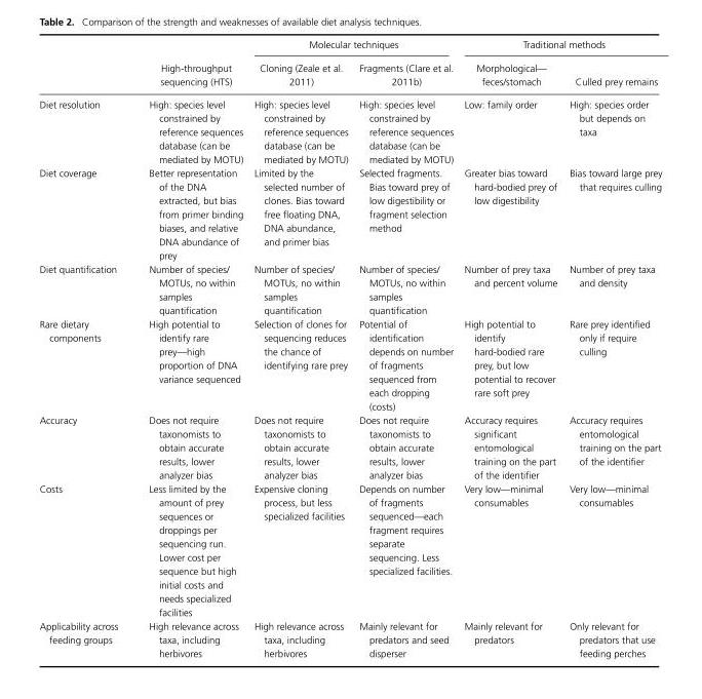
<table><thead><tr><td rowspan="2"></td><td rowspan="2">High-throughput sequencing (HTS)</td><td colspan="2">Molecular techniques</td><td colspan="2">Traditional methods</td></tr><tr><td>Cloning (Zeale et al. 2011)</td><td>Fragments (Clare et al. 2011b)</td><td>Morphological— feces/stomach</td><td>Culled prey remains</td></tr></thead><tbody><tr><td>Diet resolution</td><td>High: species level constrained by reference sequences database (can be mediated by MOTU)</td><td>High: species level constrained by reference sequences database (can be mediated by MOTU)</td><td>High: species level constrained by reference sequences database (can be mediated by MOTU)</td><td>Low: family order</td><td>High: species order but depends on taxa</td></tr><tr><td>Diet coverage</td><td>Better representation of the DNA extracted, but bias from primer binding biases, and relative DNA abundance of prey</td><td>Limited by the selected number of clones. Bias toward free floating DNA, DNA abundance, and primer bias</td><td>Selected fragments. Bias toward prey of low digestibility or fragment selection method</td><td>Greater bias toward hard-bodied prey of low digestibility</td><td>Bias toward large prey that requires culling</td></tr><tr><td>Diet quantification</td><td>Number of species/ MOTUs, no within samples quantification</td><td>Number of species/ MOTUs, no within samples quantification</td><td>Number of species/ MOTUs, no within samples quantification</td><td>Number of prey taxa and percent volume</td><td>Number of prey taxa and density</td></tr><tr><td>Rare dietary components</td><td>High potential to identify rare prey—high proportion of DNA variance sequenced</td><td>Selection of clones for sequencing reduces the chance of identifying rare prey</td><td>Potential of identification depends on number of fragments sequenced from each dropping (costs)</td><td>High potential to identify hard-bodied rare prey, but low potential to recover rare soft prey</td><td>Rare prey identified only if require culling</td></tr><tr><td>Accuracy</td><td>Does not require taxonomists to obtain accurate results, lower analyzer bias</td><td>Does not require taxonomists to obtain accurate results, lower analyzer bias</td><td>Does not require taxonomists to obtain accurate results, lower analyzer bias</td><td>Accuracy requires significant entomological training on the part of the identifier</td><td>Accuracy requires entomological training on the part of the identifier</td></tr><tr><td>Costs</td><td>Less limited by the amount of prey sequences or droppings per sequencing run. Lower cost per sequence but high initial costs and needs specialized facilities</td><td>Expensive cloning process, but less specialized facilities</td><td>Depends on number of fragments sequenced—each fragment requires separate sequencing. Less specialized facilities.</td><td>Very low—minimal consumables</td><td>Very low—minimal consumables</td></tr><tr><td>Applicability across feeding groups</td><td>High relevance across taxa, including herbivores</td><td>High relevance across taxa, including herbivores</td><td>Mainly relevant for predators and seed disperser</td><td>Mainly relevant for predators</td><td>Only relevant for predators that use feeding perches</td></tr></tbody></table>